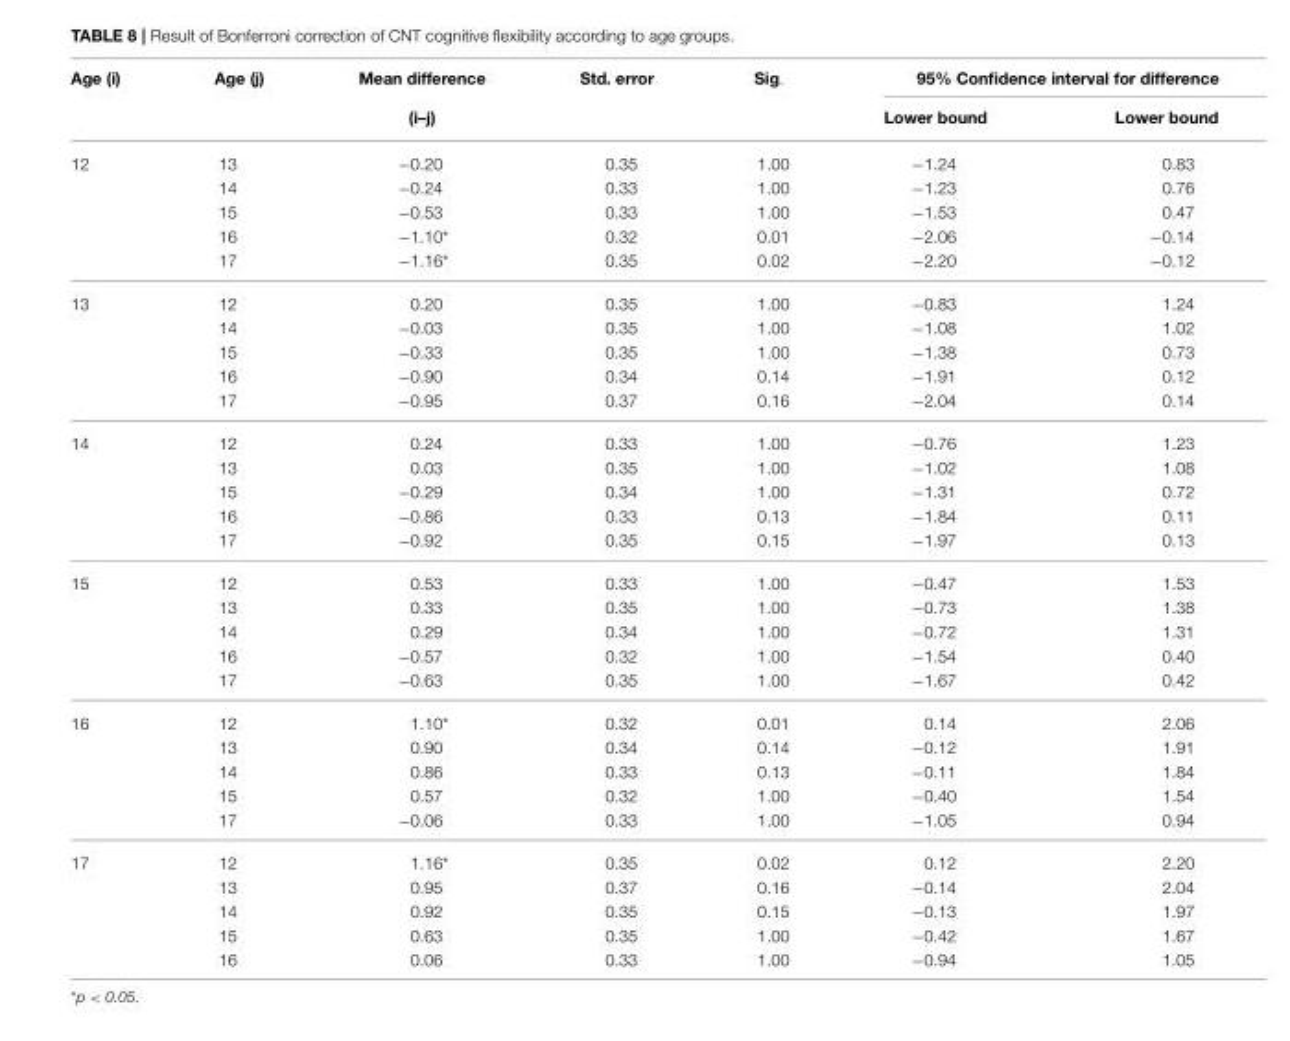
<table><thead><tr><td rowspan="2">Age (i)</td><td rowspan="2">Age (j)</td><td rowspan="2">Mean difference (i–j)</td><td rowspan="2">Std. error</td><td rowspan="2">Sig.</td><td colspan="2">95% Confidence interval for difference</td></tr><tr><td>Lower bound</td><td>Lower bound</td></tr></thead><tbody><tr><td rowspan="5">12</td><td>13</td><td>−0.20</td><td>0.35</td><td>1.00</td><td>−1.24</td><td>0.83</td></tr><tr><td>14</td><td>−0.24</td><td>0.33</td><td>1.00</td><td>−1.23</td><td>0.76</td></tr><tr><td>15</td><td>−0.53</td><td>0.33</td><td>1.00</td><td>−1.53</td><td>0.47</td></tr><tr><td>16</td><td>−1.10*</td><td>0.32</td><td>0.01</td><td>−2.06</td><td>−0.14</td></tr><tr><td>17</td><td>−1.16*</td><td>0.35</td><td>0.02</td><td>−2.20</td><td>−0.12</td></tr><tr><td rowspan="5">13</td><td>12</td><td>0.20</td><td>0.35</td><td>1.00</td><td>−0.83</td><td>1.24</td></tr><tr><td>14</td><td>−0.03</td><td>0.35</td><td>1.00</td><td>−1.08</td><td>1.02</td></tr><tr><td>15</td><td>−0.33</td><td>0.35</td><td>1.00</td><td>−1.38</td><td>0.73</td></tr><tr><td>16</td><td>−0.90</td><td>0.34</td><td>0.14</td><td>−1.91</td><td>0.12</td></tr><tr><td>17</td><td>−0.95</td><td>0.37</td><td>0.16</td><td>−2.04</td><td>0.14</td></tr><tr><td rowspan="5">14</td><td>12</td><td>0.24</td><td>0.33</td><td>1.00</td><td>−0.76</td><td>1.23</td></tr><tr><td>13</td><td>0.03</td><td>0.35</td><td>1.00</td><td>−1.02</td><td>1.08</td></tr><tr><td>15</td><td>−0.29</td><td>0.34</td><td>1.00</td><td>−1.31</td><td>0.72</td></tr><tr><td>16</td><td>−0.86</td><td>0.33</td><td>0.13</td><td>−1.84</td><td>0.11</td></tr><tr><td>17</td><td>−0.92</td><td>0.35</td><td>0.15</td><td>−1.97</td><td>0.13</td></tr><tr><td rowspan="5">15</td><td>12</td><td>0.53</td><td>0.33</td><td>1.00</td><td>−0.47</td><td>1.53</td></tr><tr><td>13</td><td>0.33</td><td>0.35</td><td>1.00</td><td>−0.73</td><td>1.38</td></tr><tr><td>14</td><td>0.29</td><td>0.34</td><td>1.00</td><td>−0.72</td><td>1.31</td></tr><tr><td>16</td><td>−0.57</td><td>0.32</td><td>1.00</td><td>−1.54</td><td>0.40</td></tr><tr><td>17</td><td>−0.63</td><td>0.35</td><td>1.00</td><td>−1.67</td><td>0.42</td></tr><tr><td rowspan="5">16</td><td>12</td><td>1.10*</td><td>0.32</td><td>0.01</td><td>0.14</td><td>2.06</td></tr><tr><td>13</td><td>0.90</td><td>0.34</td><td>0.14</td><td>−0.12</td><td>1.91</td></tr><tr><td>14</td><td>0.86</td><td>0.33</td><td>0.13</td><td>−0.11</td><td>1.84</td></tr><tr><td>15</td><td>0.57</td><td>0.32</td><td>1.00</td><td>−0.40</td><td>1.54</td></tr><tr><td>17</td><td>−0.06</td><td>0.33</td><td>1.00</td><td>−1.05</td><td>0.94</td></tr><tr><td rowspan="5">17</td><td>12</td><td>1.16*</td><td>0.35</td><td>0.02</td><td>0.12</td><td>2.20</td></tr><tr><td>13</td><td>0.95</td><td>0.37</td><td>0.16</td><td>−0.14</td><td>2.04</td></tr><tr><td>14</td><td>0.92</td><td>0.35</td><td>0.15</td><td>−0.13</td><td>1.97</td></tr><tr><td>15</td><td>0.63</td><td>0.35</td><td>1.00</td><td>−0.42</td><td>1.67</td></tr><tr><td>16</td><td>0.06</td><td>0.33</td><td>1.00</td><td>−0.94</td><td>1.05</td></tr></tbody></table>